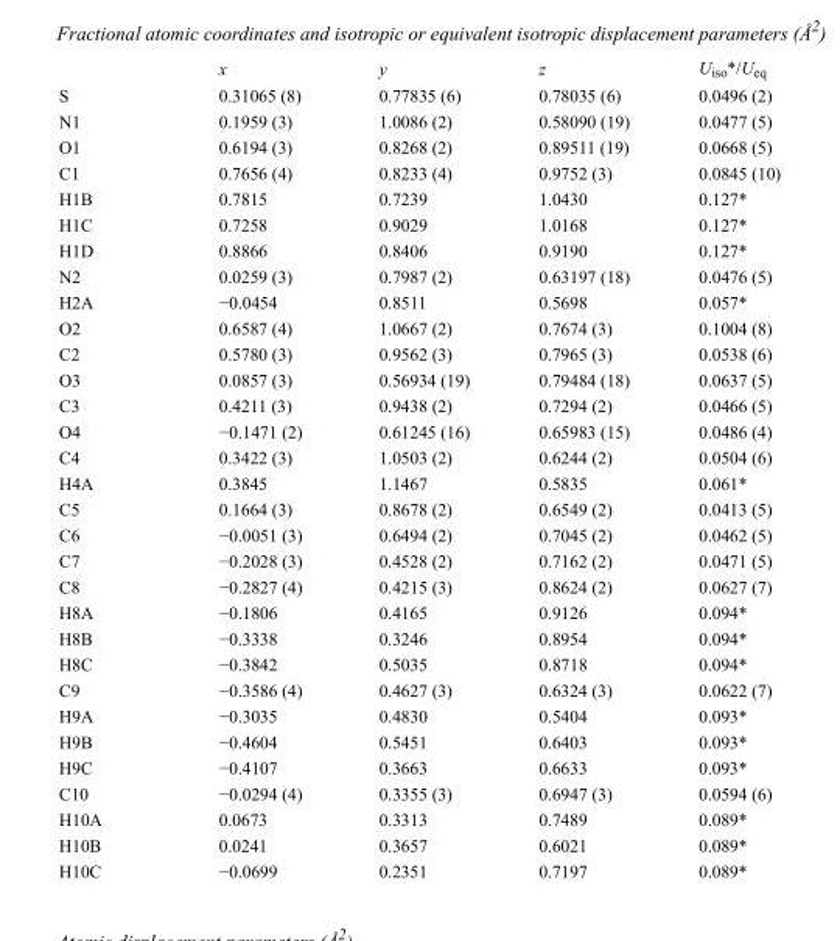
<table><thead><tr><td></td><td>x</td><td>y</td><td>z</td><td>U<sub>iso</sub>*/U<sub>eq</sub></td></tr></thead><tbody><tr><td>S</td><td>0.31065 (8)</td><td>0.77835 (6)</td><td>0.78035 (6)</td><td>0.0496 (2)</td></tr><tr><td>N1</td><td>0.1959 (3)</td><td>1.0086 (2)</td><td>0.58090 (19)</td><td>0.0477 (5)</td></tr><tr><td>O1</td><td>0.6194 (3)</td><td>0.8268 (2)</td><td>0.89511 (19)</td><td>0.0668 (5)</td></tr><tr><td>C1</td><td>0.7656 (4)</td><td>0.8233 (4)</td><td>0.9752 (3)</td><td>0.0845 (10)</td></tr><tr><td>H1B</td><td>0.7815</td><td>0.7239</td><td>1.0430</td><td>0.127*</td></tr><tr><td>H1C</td><td>0.7258</td><td>0.9029</td><td>1.0168</td><td>0.127*</td></tr><tr><td>H1D</td><td>0.8866</td><td>0.8406</td><td>0.9190</td><td>0.127*</td></tr><tr><td>N2</td><td>0.0259 (3)</td><td>0.7987 (2)</td><td>0.63197 (18)</td><td>0.0476 (5)</td></tr><tr><td>H2A</td><td>−0.0454</td><td>0.8511</td><td>0.5698</td><td>0.057*</td></tr><tr><td>O2</td><td>0.6587 (4)</td><td>1.0667 (2)</td><td>0.7674 (3)</td><td>0.1004 (8)</td></tr><tr><td>C2</td><td>0.5780 (3)</td><td>0.9562 (3)</td><td>0.7965 (3)</td><td>0.0538 (6)</td></tr><tr><td>O3</td><td>0.0857 (3)</td><td>0.56934 (19)</td><td>0.79484 (18)</td><td>0.0637 (5)</td></tr><tr><td>C3</td><td>0.4211 (3)</td><td>0.9438 (2)</td><td>0.7294 (2)</td><td>0.0466 (5)</td></tr><tr><td>O4</td><td>−0.1471 (2)</td><td>0.61245 (16)</td><td>0.65983 (15)</td><td>0.0486 (4)</td></tr><tr><td>C4</td><td>0.3422 (3)</td><td>1.0503 (2)</td><td>0.6244 (2)</td><td>0.0504 (6)</td></tr><tr><td>H4A</td><td>0.3845</td><td>1.1467</td><td>0.5835</td><td>0.061*</td></tr><tr><td>C5</td><td>0.1664 (3)</td><td>0.8678 (2)</td><td>0.6549 (2)</td><td>0.0413 (5)</td></tr><tr><td>C6</td><td>−0.0051 (3)</td><td>0.6494 (2)</td><td>0.7045 (2)</td><td>0.0462 (5)</td></tr><tr><td>C7</td><td>−0.2028 (3)</td><td>0.4528 (2)</td><td>0.7162 (2)</td><td>0.0471 (5)</td></tr><tr><td>C8</td><td>−0.2827 (4)</td><td>0.4215 (3)</td><td>0.8624 (2)</td><td>0.0627 (7)</td></tr><tr><td>H8A</td><td>−0.1806</td><td>0.4165</td><td>0.9126</td><td>0.094*</td></tr><tr><td>H8B</td><td>−0.3338</td><td>0.3246</td><td>0.8954</td><td>0.094*</td></tr><tr><td>H8C</td><td>−0.3842</td><td>0.5035</td><td>0.8718</td><td>0.094*</td></tr><tr><td>C9</td><td>−0.3586 (4)</td><td>0.4627 (3)</td><td>0.6324 (3)</td><td>0.0622 (7)</td></tr><tr><td>H9A</td><td>−0.3035</td><td>0.4830</td><td>0.5404</td><td>0.093*</td></tr><tr><td>H9B</td><td>−0.4604</td><td>0.5451</td><td>0.6403</td><td>0.093*</td></tr><tr><td>H9C</td><td>−0.4107</td><td>0.3663</td><td>0.6633</td><td>0.093*</td></tr><tr><td>C10</td><td>−0.0294 (4)</td><td>0.3355 (3)</td><td>0.6947 (3)</td><td>0.0594 (6)</td></tr><tr><td>H10A</td><td>0.0673</td><td>0.3313</td><td>0.7489</td><td>0.089*</td></tr><tr><td>H10B</td><td>0.0241</td><td>0.3657</td><td>0.6021</td><td>0.089*</td></tr><tr><td>H10C</td><td>−0.0699</td><td>0.2351</td><td>0.7197</td><td>0.089*</td></tr></tbody></table>